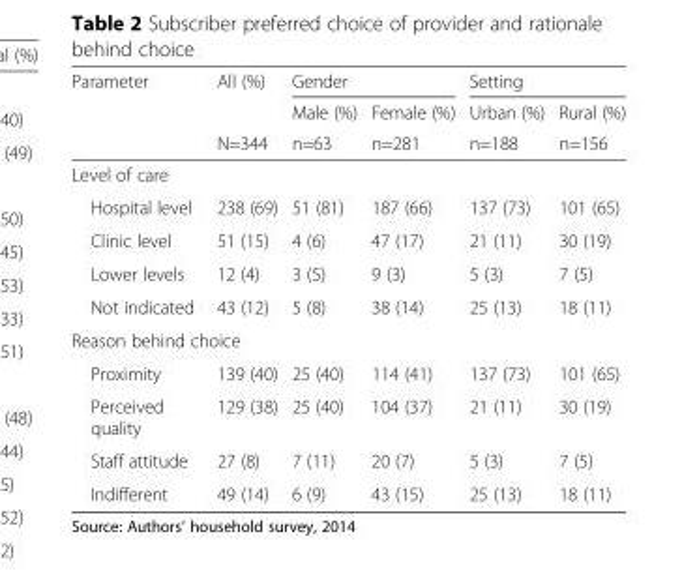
<table><thead><tr><td rowspan="3">Parameter</td><td rowspan="3">All (%) N=344</td><td colspan="2">Gender</td><td colspan="2">Setting</td></tr><tr><td rowspan="2">Male (%) n=63</td><td rowspan="2">Female (%) n=281</td><td rowspan="2">Urban (%) n=188</td><td rowspan="2">Rural (%) n=156</td></tr><tr></tr></thead><tbody><tr><td colspan="6">Level of care</td></tr><tr><td>Hospital level</td><td>238 (69)</td><td>51 (81)</td><td>187 (66)</td><td>137 (73)</td><td>101 (65)</td></tr><tr><td>Clinic level</td><td>51 (15)</td><td>4 (6)</td><td>47 (17)</td><td>21 (11)</td><td>30 (19)</td></tr><tr><td>Lower levels</td><td>12 (4)</td><td>3 (5)</td><td>9 (3)</td><td>5 (3)</td><td>7 (5)</td></tr><tr><td>Not indicated</td><td>43 (12)</td><td>5 (8)</td><td>38 (14)</td><td>25 (13)</td><td>18 (11)</td></tr><tr><td colspan="6">Reason behind choice</td></tr><tr><td>Proximity</td><td>139 (40)</td><td>25 (40)</td><td>114 (41)</td><td>137 (73)</td><td>101 (65)</td></tr><tr><td>Perceived quality</td><td>129 (38)</td><td>25 (40)</td><td>104 (37)</td><td>21 (11)</td><td>30 (19)</td></tr><tr><td>Staff attitude</td><td>27 (8)</td><td>7 (11)</td><td>20 (7)</td><td>5 (3)</td><td>7 (5)</td></tr><tr><td>Indifferent</td><td>49 (14)</td><td>6 (9)</td><td>43 (15)</td><td>25 (13)</td><td>18 (11)</td></tr></tbody></table>